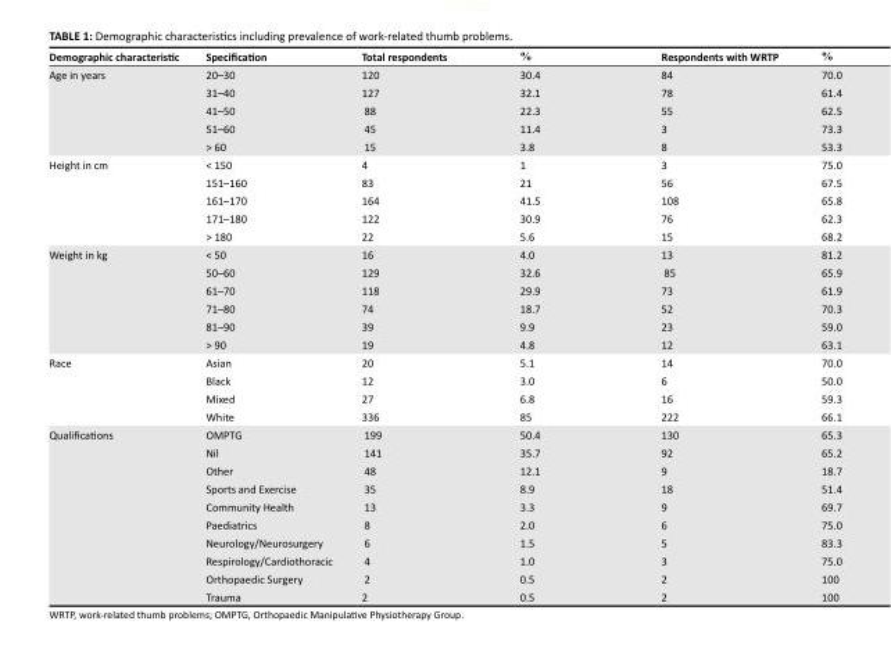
<table><thead><tr><td>Demographic characteristic</td><td>Specification</td><td>Total respondents</td><td>%</td><td>Respondents with WRTP</td><td>%</td></tr></thead><tbody><tr><td rowspan="5">Age in years</td><td>20–30</td><td>120</td><td>30.4</td><td>84</td><td>70.0</td></tr><tr><td>31–40</td><td>127</td><td>32.1</td><td>78</td><td>61.4</td></tr><tr><td>41–50</td><td>88</td><td>22.3</td><td>55</td><td>62.5</td></tr><tr><td>51–60</td><td>45</td><td>11.4</td><td>3</td><td>73.3</td></tr><tr><td>&gt; 60</td><td>15</td><td>3.8</td><td>8</td><td>53.3</td></tr><tr><td rowspan="5">Height in cm</td><td>&lt; 150</td><td>4</td><td>1</td><td>3</td><td>75.0</td></tr><tr><td>151–160</td><td>83</td><td>21</td><td>56</td><td>67.5</td></tr><tr><td>161–170</td><td>164</td><td>41.5</td><td>108</td><td>65.8</td></tr><tr><td>171–180</td><td>122</td><td>30.9</td><td>76</td><td>62.3</td></tr><tr><td>&gt; 180</td><td>22</td><td>5.6</td><td>15</td><td>68.2</td></tr><tr><td rowspan="6">Weight in kg</td><td>&lt; 50</td><td>16</td><td>4.0</td><td>13</td><td>81.2</td></tr><tr><td>50–60</td><td>129</td><td>32.6</td><td>85</td><td>65.9</td></tr><tr><td>61–70</td><td>118</td><td>29.9</td><td>73</td><td>61.9</td></tr><tr><td>71–80</td><td>74</td><td>18.7</td><td>52</td><td>70.3</td></tr><tr><td>81–90</td><td>39</td><td>9.9</td><td>23</td><td>59.0</td></tr><tr><td>&gt; 90</td><td>19</td><td>4.8</td><td>12</td><td>63.1</td></tr><tr><td rowspan="4">Race</td><td>Asian</td><td>20</td><td>5.1</td><td>14</td><td>70.0</td></tr><tr><td>Black</td><td>12</td><td>3.0</td><td>6</td><td>50.0</td></tr><tr><td>Mixed</td><td>27</td><td>6.8</td><td>16</td><td>59.3</td></tr><tr><td>White</td><td>336</td><td>85</td><td>222</td><td>66.1</td></tr><tr><td rowspan="10">Qualifications</td><td>OMPTG</td><td>199</td><td>50.4</td><td>130</td><td>65.3</td></tr><tr><td>Nil</td><td>141</td><td>35.7</td><td>92</td><td>65.2</td></tr><tr><td>Other</td><td>48</td><td>12.1</td><td>9</td><td>18.7</td></tr><tr><td>Sports and Exercise</td><td>35</td><td>8.9</td><td>18</td><td>51.4</td></tr><tr><td>Community Health</td><td>13</td><td>3.3</td><td>9</td><td>69.7</td></tr><tr><td>Paediatrics</td><td>8</td><td>2.0</td><td>6</td><td>75.0</td></tr><tr><td>Neurology/Neurosurgery</td><td>6</td><td>1.5</td><td>5</td><td>83.3</td></tr><tr><td>Respirology/Cardiothoracic</td><td>4</td><td>1.0</td><td>3</td><td>75.0</td></tr><tr><td>Orthopaedic Surgery</td><td>2</td><td>0.5</td><td>2</td><td>100</td></tr><tr><td>Trauma</td><td>2</td><td>0.5</td><td>2</td><td>100</td></tr></tbody></table>